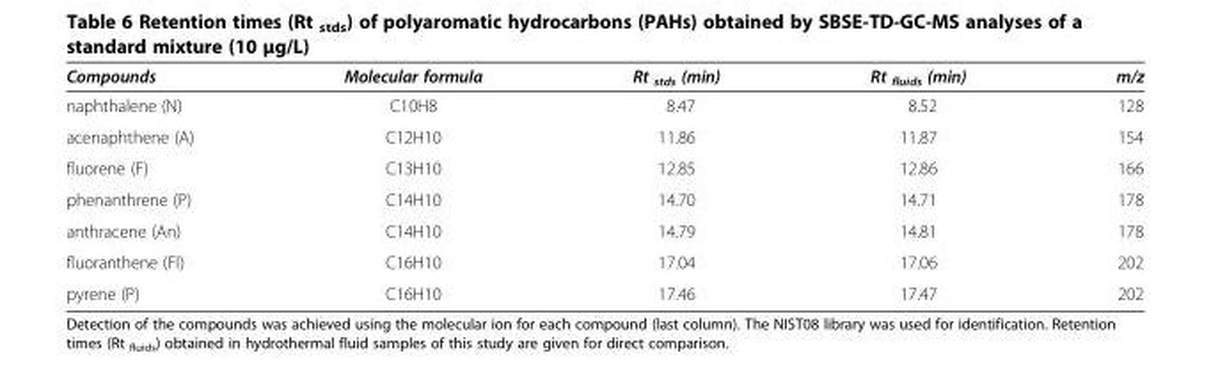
<table><thead><tr><td>Compounds</td><td>Molecular formula</td><td>Rt <sub>stds</sub> (min)</td><td>Rt <sub>fluids</sub> (min)</td><td>m/z</td></tr></thead><tbody><tr><td>naphthalene (N)</td><td>C10H8</td><td>8.47</td><td>8.52</td><td>128</td></tr><tr><td>acenaphthene (A)</td><td>C12H10</td><td>11.86</td><td>11.87</td><td>154</td></tr><tr><td>fluorene (F)</td><td>C13H10</td><td>12.85</td><td>12.86</td><td>166</td></tr><tr><td>phenanthrene (P)</td><td>C14H10</td><td>14.70</td><td>14.71</td><td>178</td></tr><tr><td>anthracene (An)</td><td>C14H10</td><td>14.79</td><td>14.81</td><td>178</td></tr><tr><td>fluoranthene (Fl)</td><td>C16H10</td><td>17.04</td><td>17.06</td><td>202</td></tr><tr><td>pyrene (P)</td><td>C16H10</td><td>17.46</td><td>17.47</td><td>202</td></tr></tbody></table>